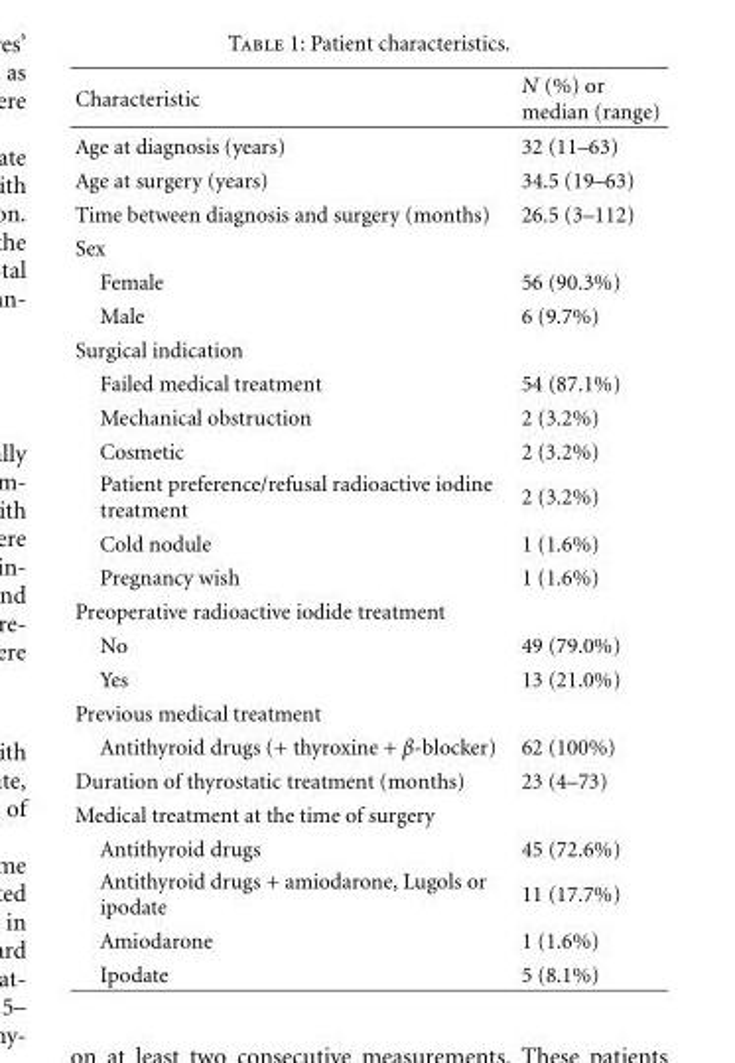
<table><thead><tr><td>Characteristic</td><td>N (%) or median (range)</td></tr></thead><tbody><tr><td>Age at diagnosis (years)</td><td>32 (11–63)</td></tr><tr><td>Age at surgery (years)</td><td>34.5 (19–63)</td></tr><tr><td>Time between diagnosis and surgery (months)</td><td>26.5 (3–112)</td></tr><tr><td colspan="2">Sex</td></tr><tr><td>Female</td><td>56 (90.3%)</td></tr><tr><td>Male</td><td>6 (9.7%)</td></tr><tr><td colspan="2">Surgical indication</td></tr><tr><td>Failed medical treatment</td><td>54 (87.1%)</td></tr><tr><td>Mechanical obstruction</td><td>2 (3.2%)</td></tr><tr><td>Cosmetic</td><td>2 (3.2%)</td></tr><tr><td>Patient preference/refusal radioactive iodine treatment</td><td>2 (3.2%)</td></tr><tr><td>Cold nodule</td><td>1 (1.6%)</td></tr><tr><td>Pregnancy wish</td><td>1 (1.6%)</td></tr><tr><td colspan="2">Preoperative radioactive iodide treatment</td></tr><tr><td>No</td><td>49 (79.0%)</td></tr><tr><td>Yes</td><td>13 (21.0%)</td></tr><tr><td colspan="2">Previous medical treatment</td></tr><tr><td>Antithyroid drugs (+ thyroxine + β-blocker)</td><td>62 (100%)</td></tr><tr><td>Duration of thyrostatic treatment (months)</td><td>23 (4–73)</td></tr><tr><td colspan="2">Medical treatment at the time of surgery</td></tr><tr><td>Antithyroid drugs</td><td>45 (72.6%)</td></tr><tr><td>Antithyroid drugs + amiodarone, Lugols or ipodate</td><td>11 (17.7%)</td></tr><tr><td>Amiodarone</td><td>1 (1.6%)</td></tr><tr><td>Ipodate</td><td>5 (8.1%)</td></tr></tbody></table>